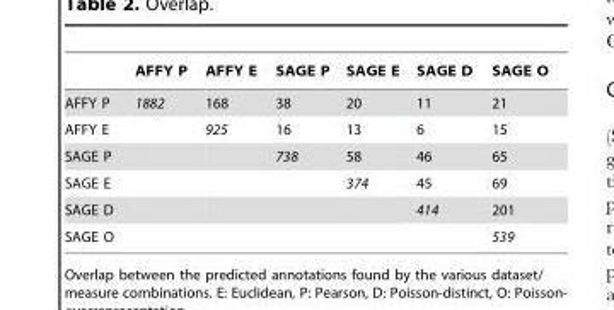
<table><thead><tr><td></td><td>AFFY P</td><td>AFFY E</td><td>SAGE P</td><td>SAGE E</td><td>SAGE D</td><td>SAGE O</td></tr></thead><tbody><tr><td>AFFY P</td><td>1882</td><td>168</td><td>38</td><td>20</td><td>11</td><td>21</td></tr><tr><td>AFFY E</td><td></td><td>925</td><td>16</td><td>13</td><td>6</td><td>15</td></tr><tr><td>SAGE P</td><td></td><td></td><td>738</td><td>58</td><td>46</td><td>65</td></tr><tr><td>SAGE E</td><td></td><td></td><td></td><td>374</td><td>45</td><td>69</td></tr><tr><td>SAGE D</td><td></td><td></td><td></td><td></td><td>414</td><td>201</td></tr><tr><td>SAGE O</td><td></td><td></td><td></td><td></td><td></td><td>539</td></tr></tbody></table>